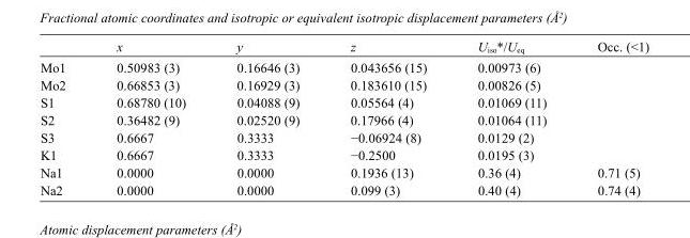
<table><thead><tr><td></td><td>x</td><td>y</td><td>z</td><td>U<sub>iso</sub>*/U<sub>eq</sub></td><td>Occ. (&lt;1)</td></tr></thead><tbody><tr><td>Mo1</td><td>0.50983 (3)</td><td>0.16646 (3)</td><td>0.043656 (15)</td><td>0.00973 (6)</td><td></td></tr><tr><td>Mo2</td><td>0.66853 (3)</td><td>0.16929 (3)</td><td>0.183610 (15)</td><td>0.00826 (5)</td><td></td></tr><tr><td>S1</td><td>0.68780 (10)</td><td>0.04088 (9)</td><td>0.05564 (4)</td><td>0.01069 (11)</td><td></td></tr><tr><td>S2</td><td>0.36482 (9)</td><td>0.02520 (9)</td><td>0.17966 (4)</td><td>0.01064 (11)</td><td></td></tr><tr><td>S3</td><td>0.6667</td><td>0.3333</td><td>−0.06924 (8)</td><td>0.0129 (2)</td><td></td></tr><tr><td>K1</td><td>0.6667</td><td>0.3333</td><td>−0.2500</td><td>0.0195 (3)</td><td></td></tr><tr><td>Na1</td><td>0.0000</td><td>0.0000</td><td>0.1936 (13)</td><td>0.36 (4)</td><td>0.71 (5)</td></tr><tr><td>Na2</td><td>0.0000</td><td>0.0000</td><td>0.099 (3)</td><td>0.40 (4)</td><td>0.74 (4)</td></tr></tbody></table>